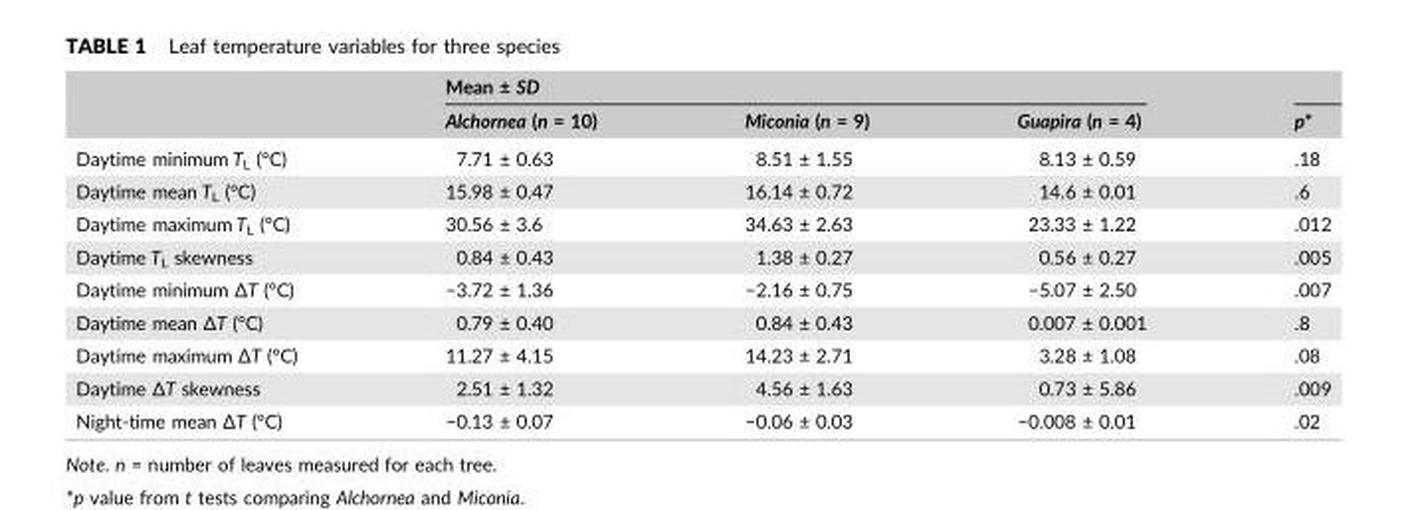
<table><thead><tr><td rowspan="2"></td><td colspan="3">Mean ± SD</td><td rowspan="2">p*</td></tr><tr><td>Alchornea (n = 10)</td><td>Miconia (n = 9)</td><td>Guapira (n = 4)</td></tr></thead><tbody><tr><td>Daytime minimum T<sub>L</sub> (°C)</td><td>7.71 ± 0.63</td><td>8.51 ± 1.55</td><td>8.13 ± 0.59</td><td>.18</td></tr><tr><td>Daytime mean T<sub>L</sub> (°C)</td><td>15.98 ± 0.47</td><td>16.14 ± 0.72</td><td>14.6 ± 0.01</td><td>.6</td></tr><tr><td>Daytime maximum T<sub>L</sub> (°C)</td><td>30.56 ± 3.6</td><td>34.63 ± 2.63</td><td>23.33 ± 1.22</td><td>.012</td></tr><tr><td>Daytime T<sub>L</sub> skewness</td><td>0.84 ± 0.43</td><td>1.38 ± 0.27</td><td>0.56 ± 0.27</td><td>.005</td></tr><tr><td>Daytime minimum ΔT (°C)</td><td>−3.72 ± 1.36</td><td>−2.16 ± 0.75</td><td>−5.07 ± 2.50</td><td>.007</td></tr><tr><td>Daytime mean ΔT (°C)</td><td>0.79 ± 0.40</td><td>0.84 ± 0.43</td><td>0.007 ± 0.001</td><td>.8</td></tr><tr><td>Daytime maximum ΔT (°C)</td><td>11.27 ± 4.15</td><td>14.23 ± 2.71</td><td>3.28 ± 1.08</td><td>.08</td></tr><tr><td>Daytime ΔT skewness</td><td>2.51 ± 1.32</td><td>4.56 ± 1.63</td><td>0.73 ± 5.86</td><td>.009</td></tr><tr><td>Night‐time mean ΔT (°C)</td><td>−0.13 ± 0.07</td><td>−0.06 ± 0.03</td><td>−0.008 ± 0.01</td><td>.02</td></tr></tbody></table>